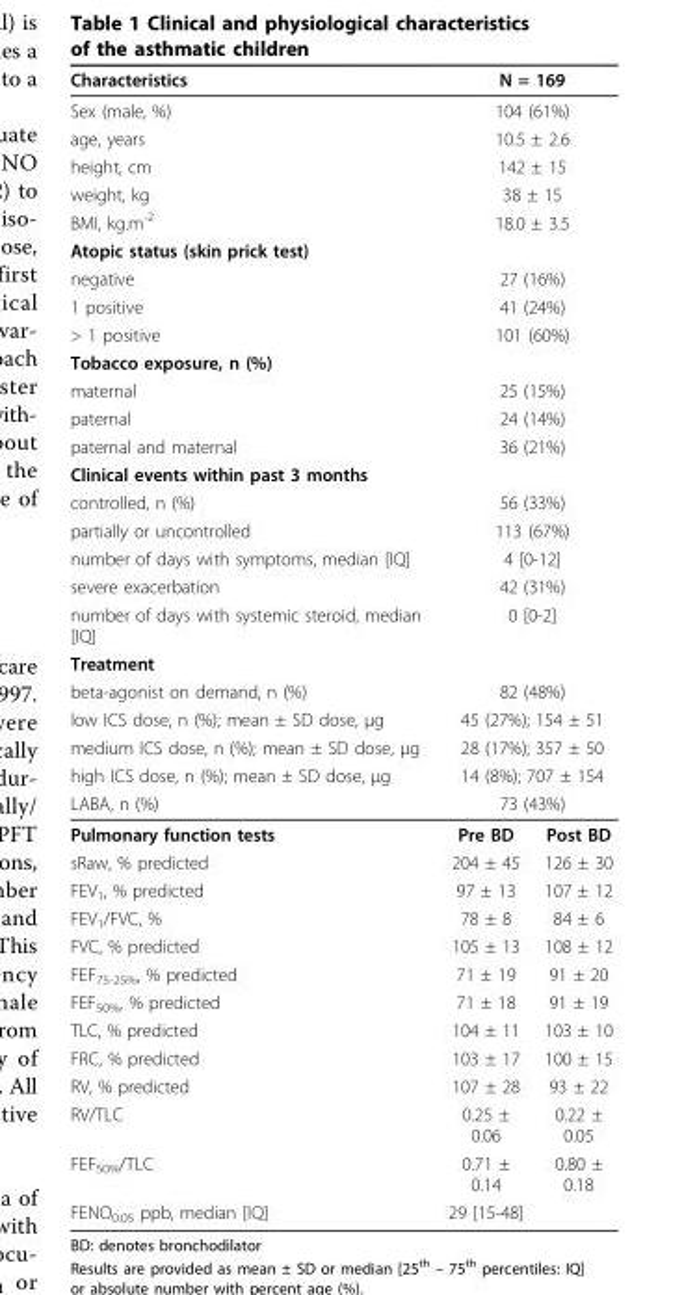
<table><thead><tr><td>Characteristics</td><td colspan="2">N = 169</td></tr></thead><tbody><tr><td>Sex (male, %)</td><td colspan="2">104 (61%)</td></tr><tr><td>age, years</td><td colspan="2">10.5 ± 2.6</td></tr><tr><td>height, cm</td><td colspan="2">142 ± 15</td></tr><tr><td>weight, kg</td><td colspan="2">38 ± 15</td></tr><tr><td>BMI, kg.m<sup>-2</sup></td><td colspan="2">18.0 ± 3.5</td></tr><tr><td colspan="3">Atopic status (skin prick test)</td></tr><tr><td>negative</td><td colspan="2">27 (16%)</td></tr><tr><td>1 positive</td><td colspan="2">41 (24%)</td></tr><tr><td>&gt; 1 positive</td><td colspan="2">101 (60%)</td></tr><tr><td colspan="3">Tobacco exposure, n (%)</td></tr><tr><td>maternal</td><td colspan="2">25 (15%)</td></tr><tr><td>paternal</td><td colspan="2">24 (14%)</td></tr><tr><td>paternal and maternal</td><td colspan="2">36 (21%)</td></tr><tr><td colspan="3">Clinical events within past 3 months</td></tr><tr><td>controlled, n (%)</td><td colspan="2">56 (33%)</td></tr><tr><td>partially or uncontrolled</td><td colspan="2">113 (67%)</td></tr><tr><td>number of days with symptoms, median [IQ]</td><td colspan="2">4 [0-12]</td></tr><tr><td>severe exacerbation</td><td colspan="2">42 (31%)</td></tr><tr><td>number of days with systemic steroid, median [IQ]</td><td colspan="2">0 [0-2]</td></tr><tr><td colspan="3">Treatment</td></tr><tr><td>beta-agonist on demand, n (%)</td><td colspan="2">82 (48%)</td></tr><tr><td>low ICS dose, n (%); mean ± SD dose, μg</td><td colspan="2">45 (27%); 154 ± 51</td></tr><tr><td>medium ICS dose, n (%); mean ± SD dose, μg</td><td colspan="2">28 (17%); 357 ± 50</td></tr><tr><td>high ICS dose, n (%); mean ± SD dose, μg</td><td colspan="2">14 (8%); 707 ± 154</td></tr><tr><td>LABA, n (%)</td><td colspan="2">73 (43%)</td></tr><tr><td>Pulmonary function tests</td><td>Pre BD</td><td>Post BD</td></tr><tr><td>sRaw, % predicted</td><td>204 ± 45</td><td>126 ± 30</td></tr><tr><td>FEV<sub>1</sub>, % predicted</td><td>97 ± 13</td><td>107 ± 12</td></tr><tr><td>FEV<sub>1</sub>/FVC, %</td><td>78 ± 8</td><td>84 ± 6</td></tr><tr><td>FVC, % predicted</td><td>105 ± 13</td><td>108 ± 12</td></tr><tr><td>FEF<sub>75-25%</sub>, % predicted</td><td>71 ± 19</td><td>91 ± 20</td></tr><tr><td>FEF<sub>50%</sub>, % predicted</td><td>71 ± 18</td><td>91 ± 19</td></tr><tr><td>TLC, % predicted</td><td>104 ± 11</td><td>103 ± 10</td></tr><tr><td>FRC, % predicted</td><td>103 ± 17</td><td>100 ± 15</td></tr><tr><td>RV, % predicted</td><td>107 ± 28</td><td>93 ± 22</td></tr><tr><td>RV/TLC</td><td>0.25 ± 0.06</td><td>0.22 ± 0.05</td></tr><tr><td>FEF<sub>50%</sub>/TLC</td><td>0.71 ± 0.14</td><td>0.80 ± 0.18</td></tr><tr><td>FENO<sub>0.05</sub> ppb, median [IQ]</td><td>29 [15-48]</td><td></td></tr></tbody></table>